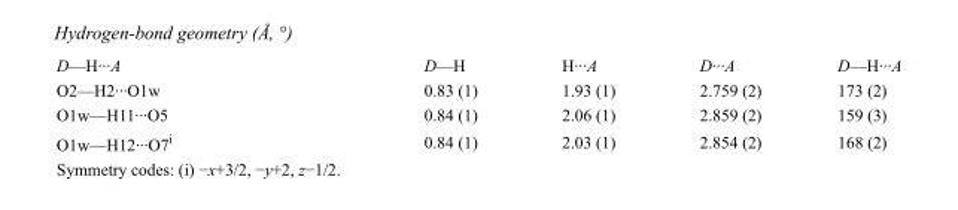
<table><tbody><tr><td>D—H···A</td><td>D—H</td><td>H···A</td><td>D···A</td><td>D—H···A</td></tr><tr><td>O2—H2···O1w</td><td>0.83 (1)</td><td>1.93 (1)</td><td>2.759 (2)</td><td>173 (2)</td></tr><tr><td>O1w—H11···O5</td><td>0.84 (1)</td><td>2.06 (1)</td><td>2.859 (2)</td><td>159 (3)</td></tr><tr><td>O1w—H12···O7<sup>i</sup></td><td>0.84 (1)</td><td>2.03 (1)</td><td>2.854 (2)</td><td>168 (2)</td></tr></tbody></table>